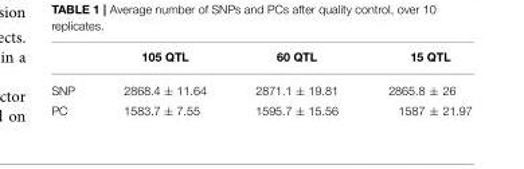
<table><thead><tr><td></td><td>105 QTL</td><td>60 QTL</td><td>15 QTL</td></tr></thead><tbody><tr><td>SNP</td><td>2868.4 ± 11.64</td><td>2871.1 ± 19.81</td><td>2865.8 ± 26</td></tr><tr><td>PC</td><td>1583.7 ± 7.55</td><td>1595.7 ± 15.56</td><td>1587 ± 21.97</td></tr></tbody></table>